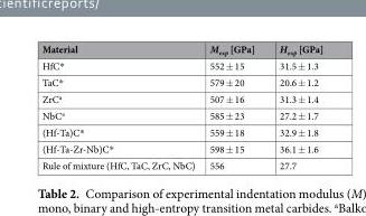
<table><thead><tr><td>Material</td><td>M<sub>exp</sub> [GPa]</td><td>H<sub>exp</sub> [GPa]</td></tr></thead><tbody><tr><td>HfC*</td><td>552 ± 15</td><td>31.5 ± 1.3</td></tr><tr><td>TaC*</td><td>579 ± 20</td><td>20.6 ± 1.2</td></tr><tr><td>ZrC<sup>a</sup></td><td>507 ± 16</td><td>31.3 ± 1.4</td></tr><tr><td>NbC<sup>a</sup></td><td>585 ± 23</td><td>27.2 ± 1.7</td></tr><tr><td>(Hf-Ta)C*</td><td>559 ± 18</td><td>32.9 ± 1.8</td></tr><tr><td>(Hf-Ta-Zr-Nb)C*</td><td>598 ± 15</td><td>36.1 ± 1.6</td></tr><tr><td>Rule of mixture (HfC, TaC, ZrC, NbC)</td><td>556</td><td>27.7</td></tr></tbody></table>